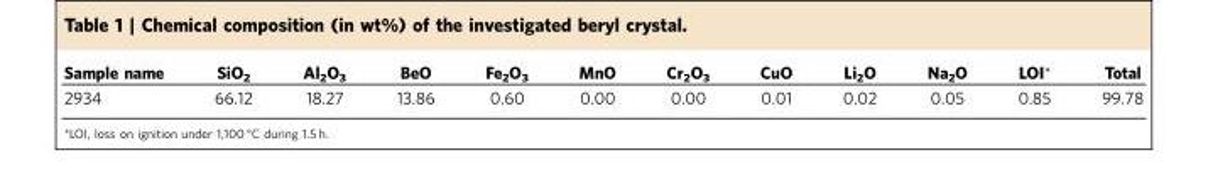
<table><thead><tr><td>Sample name</td><td>SiO<sub>2</sub></td><td>Al<sub>2</sub>O<sub>3</sub></td><td>BeO</td><td>Fe<sub>2</sub>O<sub>3</sub></td><td>MnO</td><td>Cr<sub>2</sub>O<sub>3</sub></td><td>CuO</td><td>Li<sub>2</sub>O</td><td>Na<sub>2</sub>O</td><td>LOI*</td><td>Total</td></tr></thead><tbody><tr><td>2934</td><td>66.12</td><td>18.27</td><td>13.86</td><td>0.60</td><td>0.00</td><td>0.00</td><td>0.01</td><td>0.02</td><td>0.05</td><td>0.85</td><td>99.78</td></tr></tbody></table>